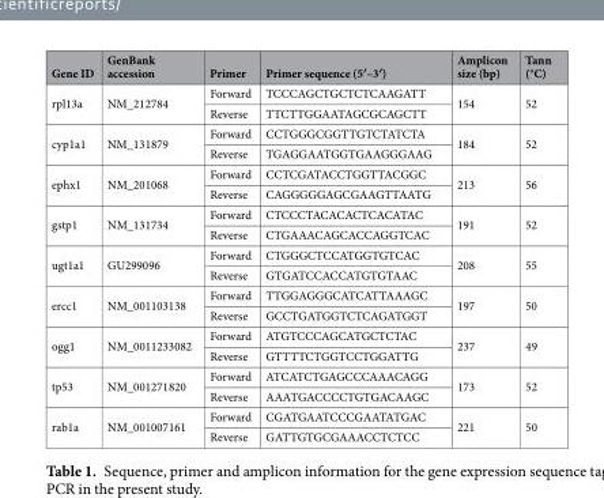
<table><thead><tr><td>Gene ID</td><td>GenBank accession</td><td>Primer</td><td>Primer sequence (5′–3′)</td><td>Amplicon size (bp)</td><td>Tann (°C)</td></tr></thead><tbody><tr><td rowspan="2">rpl13a</td><td rowspan="2">NM_212784</td><td>Forward</td><td>TCCCAGCTGCTCTCAAGATT</td><td rowspan="2">154</td><td rowspan="2">52</td></tr><tr><td>Reverse</td><td>TTCTTGGAATAGCGCAGCTT</td></tr><tr><td rowspan="2">cyp1a1</td><td rowspan="2">NM_131879</td><td>Forward</td><td>CCTGGGCGGTTGTCTATCTA</td><td rowspan="2">184</td><td rowspan="2">52</td></tr><tr><td>Reverse</td><td>TGAGGAATGGTGAAGGGAAG</td></tr><tr><td rowspan="2">ephx1</td><td rowspan="2">NM_201068</td><td>Forward</td><td>CCTCGATACCTGGTTACGGC</td><td rowspan="2">213</td><td rowspan="2">56</td></tr><tr><td>Reverse</td><td>CAGGGGGAGCGAAGTTAATG</td></tr><tr><td rowspan="2">gstp1</td><td rowspan="2">NM_131734</td><td>Forward</td><td>CTCCCTACACACTCACATAC</td><td rowspan="2">191</td><td rowspan="2">52</td></tr><tr><td>Reverse</td><td>CTGAAACAGCACCAGGTCAC</td></tr><tr><td rowspan="2">ugt1a1</td><td rowspan="2">GU299096</td><td>Forward</td><td>CTGGGCTCCATGGTGTCAC</td><td rowspan="2">208</td><td rowspan="2">55</td></tr><tr><td>Reverse</td><td>GTGATCCACCATGTGTAAC</td></tr><tr><td rowspan="2">ercc1</td><td rowspan="2">NM_001103138</td><td>Forward</td><td>TTGGAGGGCATCATTAAAGC</td><td rowspan="2">197</td><td rowspan="2">50</td></tr><tr><td>Reverse</td><td>GCCTGATGGTCTCAGATGGT</td></tr><tr><td rowspan="2">ogg1</td><td rowspan="2">NM_0011233082</td><td>Forward</td><td>ATGTCCCAGCATGCTCTAC</td><td rowspan="2">237</td><td rowspan="2">49</td></tr><tr><td>Reverse</td><td>GTTTTCTGGTCCTGGATTG</td></tr><tr><td rowspan="2">tp53</td><td rowspan="2">NM_001271820</td><td>Forward</td><td>ATCATCTGAGCCCAAACAGG</td><td rowspan="2">173</td><td rowspan="2">52</td></tr><tr><td>Reverse</td><td>AAATGACCCCTGTGACAAGC</td></tr><tr><td rowspan="2">rab1a</td><td rowspan="2">NM_001007161</td><td>Forward</td><td>CGATGAATCCCGAATATGAC</td><td rowspan="2">221</td><td rowspan="2">50</td></tr><tr><td>Reverse</td><td>GATTGTGCGAAACCTCTCC</td></tr></tbody></table>